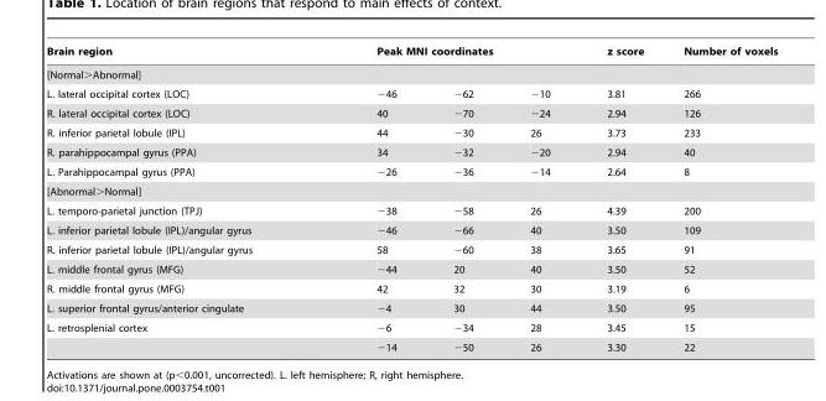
<table><thead><tr><td>Brain region</td><td colspan="3">Peak MNI coordinates</td><td>z score</td><td>Number of voxels</td></tr><tr><td colspan="6">[Normal&gt;Abnormal]</td></tr><tr><td>L. lateral occipital cortex (LOC)</td><td>−46</td><td>−62</td><td>−10</td><td>3.81</td><td>266</td></tr></thead><tbody><tr><td>R. lateral occipital cortex (LOC)</td><td>40</td><td>−70</td><td>−24</td><td>2.94</td><td>126</td></tr><tr><td>R. inferior parietal lobule (IPL)</td><td>44</td><td>−30</td><td>26</td><td>3.73</td><td>233</td></tr><tr><td>R. parahippocampal gyrus (PPA)</td><td>34</td><td>−32</td><td>−20</td><td>2.94</td><td>40</td></tr><tr><td>L. Parahippocampal gyrus (PPA)</td><td>−26</td><td>−36</td><td>−14</td><td>2.64</td><td>8</td></tr><tr><td colspan="6">[Abnormal&gt;Normal]</td></tr><tr><td>L. temporo-parietal junction (TPJ)</td><td>−38</td><td>−58</td><td>26</td><td>4.39</td><td>200</td></tr><tr><td>L. inferior parietal lobule (IPL)/angular gyrus</td><td>−46</td><td>−66</td><td>40</td><td>3.50</td><td>109</td></tr><tr><td>R. inferior parietal lobule (IPL)/angular gyrus</td><td>58</td><td>−60</td><td>38</td><td>3.65</td><td>91</td></tr><tr><td>L. middle frontal gyrus (MFG)</td><td>−44</td><td>20</td><td>40</td><td>3.50</td><td>52</td></tr><tr><td>R. middle frontal gyrus (MFG)</td><td>42</td><td>32</td><td>30</td><td>3.19</td><td>6</td></tr><tr><td>L. superior frontal gyrus/anterior cingulate</td><td>−4</td><td>30</td><td>44</td><td>3.50</td><td>95</td></tr><tr><td rowspan="2">L. retrosplenial cortex</td><td>−6</td><td>−34</td><td>28</td><td>3.45</td><td>15</td></tr><tr><td>−14</td><td>−50</td><td>26</td><td>3.30</td><td>22</td></tr></tbody></table>